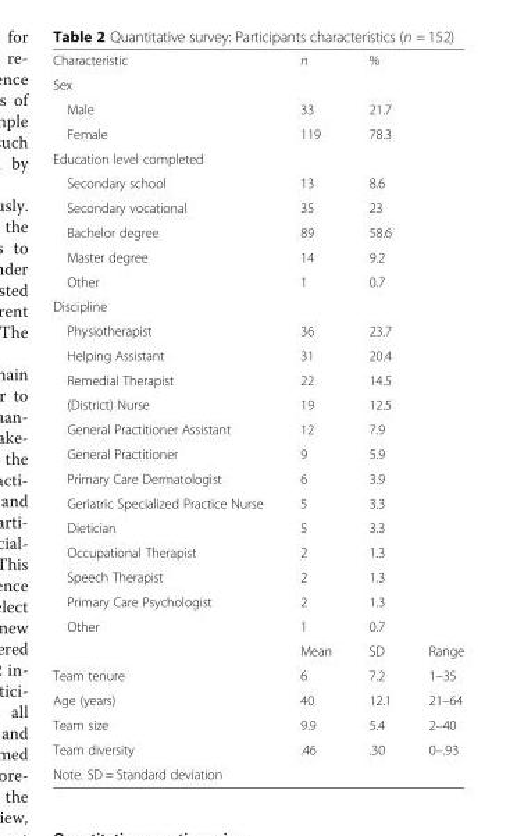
<table><tbody><tr><td>Characteristic</td><td>n</td><td>%</td><td></td></tr><tr><td colspan="4">Sex</td></tr><tr><td>Male</td><td>33</td><td>21.7</td><td></td></tr><tr><td>Female</td><td>119</td><td>78.3</td><td></td></tr><tr><td colspan="4">Education level completed</td></tr><tr><td>Secondary school</td><td>13</td><td>8.6</td><td></td></tr><tr><td>Secondary vocational</td><td>35</td><td>23</td><td></td></tr><tr><td>Bachelor degree</td><td>89</td><td>58.6</td><td></td></tr><tr><td>Master degree</td><td>14</td><td>9.2</td><td></td></tr><tr><td>Other</td><td>1</td><td>0.7</td><td></td></tr><tr><td colspan="4">Discipline</td></tr><tr><td>Physiotherapist</td><td>36</td><td>23.7</td><td></td></tr><tr><td>Helping Assistant</td><td>31</td><td>20.4</td><td></td></tr><tr><td>Remedial Therapist</td><td>22</td><td>14.5</td><td></td></tr><tr><td>(District) Nurse</td><td>19</td><td>12.5</td><td></td></tr><tr><td>General Practitioner Assistant</td><td>12</td><td>7.9</td><td></td></tr><tr><td>General Practitioner</td><td>9</td><td>5.9</td><td></td></tr><tr><td>Primary Care Dermatologist</td><td>6</td><td>3.9</td><td></td></tr><tr><td>Geriatric Specialized Practice Nurse</td><td>5</td><td>3.3</td><td></td></tr><tr><td>Dietician</td><td>5</td><td>3.3</td><td></td></tr><tr><td>Occupational Therapist</td><td>2</td><td>1.3</td><td></td></tr><tr><td>Speech Therapist</td><td>2</td><td>1.3</td><td></td></tr><tr><td>Primary Care Psychologist</td><td>2</td><td>1.3</td><td></td></tr><tr><td rowspan="2">Other</td><td>1</td><td>0.7</td><td></td></tr><tr><td>Mean</td><td>SD</td><td>Range</td></tr><tr><td>Team tenure</td><td>6</td><td>7.2</td><td>1–35</td></tr><tr><td>Age (years)</td><td>40</td><td>12.1</td><td>21–64</td></tr><tr><td>Team size</td><td>9.9</td><td>5.4</td><td>2–40</td></tr><tr><td>Team diversity</td><td>.46</td><td>.30</td><td>0–.93</td></tr><tr><td>Note. SD = Standard deviation</td><td></td><td></td><td></td></tr></tbody></table>